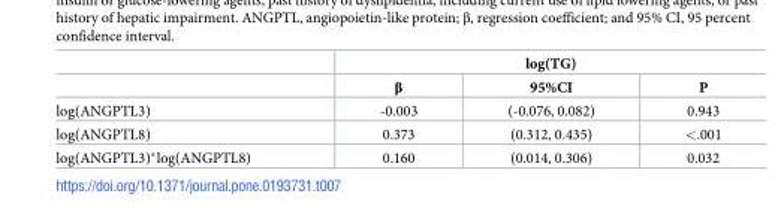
<table><thead><tr><td rowspan="2"></td><td colspan="3">log(TG)</td></tr><tr><td>β</td><td>95%CI</td><td>P</td></tr></thead><tbody><tr><td>log(ANGPTL3)</td><td>-0.003</td><td>(-0.076, 0.082)</td><td>0.943</td></tr><tr><td>log(ANGPTL8)</td><td>0.373</td><td>(0.312, 0.435)</td><td>&lt;.001</td></tr><tr><td>log(ANGPTL3)*log(ANGPTL8)</td><td>0.160</td><td>(0.014, 0.306)</td><td>0.032</td></tr></tbody></table>